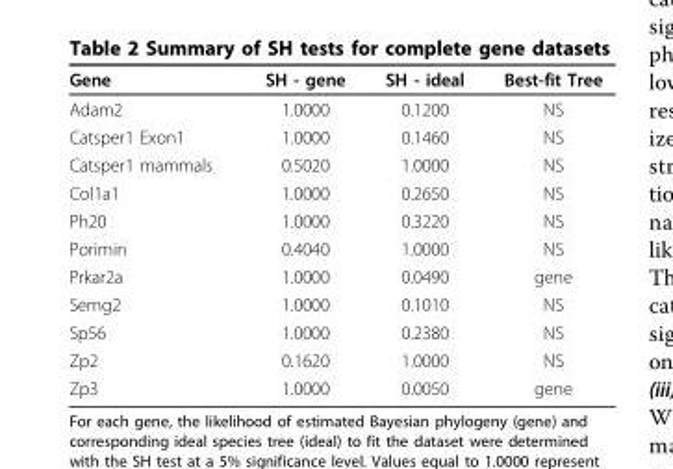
<table><thead><tr><td>Gene</td><td>SH - gene</td><td>SH - ideal</td><td>Best-fit Tree</td></tr></thead><tbody><tr><td>Adam2</td><td>1.0000</td><td>0.1200</td><td>NS</td></tr><tr><td>Catsper1 Exon1</td><td>1.0000</td><td>0.1460</td><td>NS</td></tr><tr><td>Catsper1 mammals</td><td>0.5020</td><td>1.0000</td><td>NS</td></tr><tr><td>Col1a1</td><td>1.0000</td><td>0.2650</td><td>NS</td></tr><tr><td>Ph20</td><td>1.0000</td><td>0.3220</td><td>NS</td></tr><tr><td>Porimin</td><td>0.4040</td><td>1.0000</td><td>NS</td></tr><tr><td>Prkar2a</td><td>1.0000</td><td>0.0490</td><td>gene</td></tr><tr><td>Semg2</td><td>1.0000</td><td>0.1010</td><td>NS</td></tr><tr><td>Sp56</td><td>1.0000</td><td>0.2380</td><td>NS</td></tr><tr><td>Zp2</td><td>0.1620</td><td>1.0000</td><td>NS</td></tr><tr><td>Zp3</td><td>1.0000</td><td>0.0050</td><td>gene</td></tr></tbody></table>